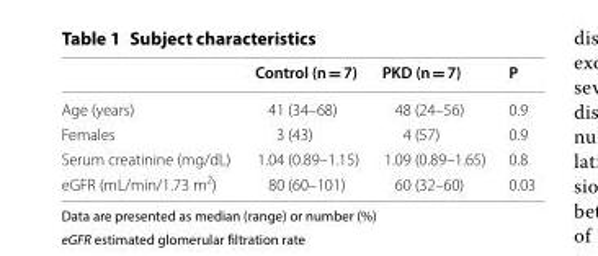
<table><thead><tr><td></td><td>Control (n = 7)</td><td>PKD (n = 7)</td><td>P</td></tr></thead><tbody><tr><td>Age (years)</td><td>41 (34–68)</td><td>48 (24–56)</td><td>0.9</td></tr><tr><td>Females</td><td>3 (43)</td><td>4 (57)</td><td>0.9</td></tr><tr><td>Serum creatinine (mg/dL)</td><td>1.04 (0.89–1.15)</td><td>1.09 (0.89–1.65)</td><td>0.8</td></tr><tr><td>eGFR (mL/min/1.73 m<sup>2</sup>)</td><td>80 (60–101)</td><td>60 (32–60)</td><td>0.03</td></tr></tbody></table>